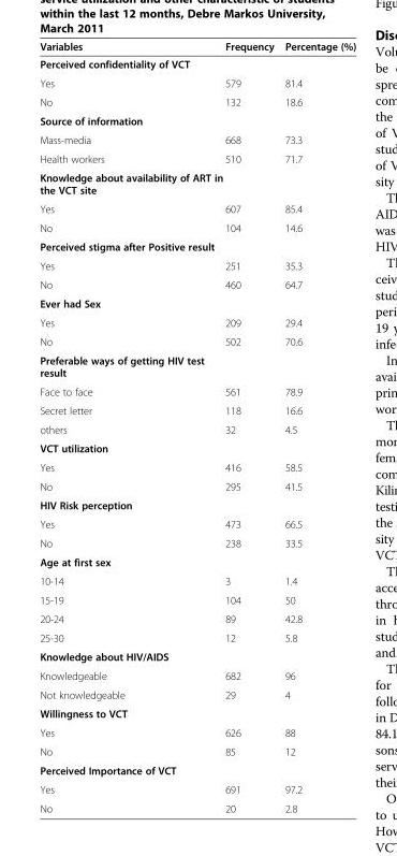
<table><thead><tr><td>Variables</td><td>Frequency</td><td>Percentage (%)</td></tr></thead><tbody><tr><td colspan="3">Perceived confidentiality of VCT</td></tr><tr><td>Yes</td><td>579</td><td>81.4</td></tr><tr><td>No</td><td>132</td><td>18.6</td></tr><tr><td colspan="3">Source of information</td></tr><tr><td>Mass-media</td><td>668</td><td>73.3</td></tr><tr><td>Health workers</td><td>510</td><td>71.7</td></tr><tr><td colspan="3">Knowledge about availability of ART in the VCT site</td></tr><tr><td>Yes</td><td>607</td><td>85.4</td></tr><tr><td>No</td><td>104</td><td>14.6</td></tr><tr><td colspan="3">Perceived stigma after Positive result</td></tr><tr><td>Yes</td><td>251</td><td>35.3</td></tr><tr><td>No</td><td>460</td><td>64.7</td></tr><tr><td colspan="3">Ever had Sex</td></tr><tr><td>Yes</td><td>209</td><td>29.4</td></tr><tr><td>No</td><td>502</td><td>70.6</td></tr><tr><td colspan="3">Preferable ways of getting HIV test result</td></tr><tr><td>Face to face</td><td>561</td><td>78.9</td></tr><tr><td>Secret letter</td><td>118</td><td>16.6</td></tr><tr><td>others</td><td>32</td><td>4.5</td></tr><tr><td colspan="3">VCT utilization</td></tr><tr><td>Yes</td><td>416</td><td>58.5</td></tr><tr><td>No</td><td>295</td><td>41.5</td></tr><tr><td colspan="3">HIV Risk perception</td></tr><tr><td>Yes</td><td>473</td><td>66.5</td></tr><tr><td>No</td><td>238</td><td>33.5</td></tr><tr><td colspan="3">Age at first sex</td></tr><tr><td>10-14</td><td>3</td><td>1.4</td></tr><tr><td>15-19</td><td>104</td><td>50</td></tr><tr><td>20-24</td><td>89</td><td>42.8</td></tr><tr><td>25-30</td><td>12</td><td>5.8</td></tr><tr><td colspan="3">Knowledge about HIV/AIDS</td></tr><tr><td>Knowledgeable</td><td>682</td><td>96</td></tr><tr><td>Not knowledgeable</td><td>29</td><td>4</td></tr><tr><td colspan="3">Willingness to VCT</td></tr><tr><td>Yes</td><td>626</td><td>88</td></tr><tr><td>No</td><td>85</td><td>12</td></tr><tr><td colspan="3">Perceived Importance of VCT</td></tr><tr><td>Yes</td><td>691</td><td>97.2</td></tr><tr><td>No</td><td>20</td><td>2.8</td></tr></tbody></table>